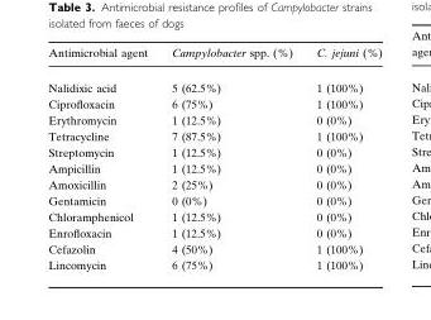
<table><thead><tr><td>Antimicrobial agent</td><td>Campylobacter spp. (%)</td><td>C. jejuni (%)</td></tr></thead><tbody><tr><td>Nalidixic acid</td><td>5 (62.5%)</td><td>1 (100%)</td></tr><tr><td>Ciprofloxacin</td><td>6 (75%)</td><td>1 (100%)</td></tr><tr><td>Erythromycin</td><td>1 (12.5%)</td><td>0 (0%)</td></tr><tr><td>Tetracycline</td><td>7 (87.5%)</td><td>1 (100%)</td></tr><tr><td>Streptomycin</td><td>1 (12.5%)</td><td>0 (0%)</td></tr><tr><td>Ampicillin</td><td>1 (12.5%)</td><td>0 (0%)</td></tr><tr><td>Amoxicillin</td><td>2 (25%)</td><td>0 (0%)</td></tr><tr><td>Gentamicin</td><td>0 (0%)</td><td>0 (0%)</td></tr><tr><td>Chloramphenicol</td><td>1 (12.5%)</td><td>0 (0%)</td></tr><tr><td>Enrofloxacin</td><td>1 (12.5%)</td><td>0 (0%)</td></tr><tr><td>Cefazolin</td><td>4 (50%)</td><td>1 (100%)</td></tr><tr><td>Lincomycin</td><td>6 (75%)</td><td>1 (100%)</td></tr></tbody></table>